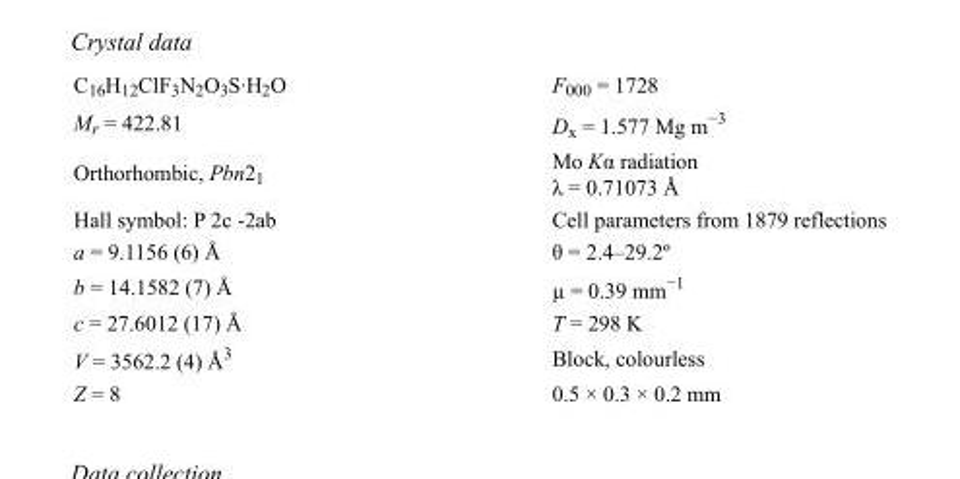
<table><tbody><tr><td>C<sub>16</sub>H<sub>12</sub>ClF<sub>3</sub>N<sub>2</sub>O<sub>3</sub>S·H<sub>2</sub>O</td><td>F000 = 1728</td></tr><tr><td>M<sub>r</sub> = 422.81</td><td>D<sub>x</sub> = 1.577 Mg m<sup>−3</sup></td></tr><tr><td>Orthorhombic, Pbn2<sub>1</sub></td><td>Mo Kα radiation λ = 0.71073 Å</td></tr><tr><td>Hall symbol: P 2c -2ab</td><td>Cell parameters from 1879 reflections</td></tr><tr><td>a = 9.1156 (6) Å</td><td>θ = 2.4–29.2º</td></tr><tr><td>b = 14.1582 (7) Å</td><td>µ = 0.39 mm<sup>−1</sup></td></tr><tr><td>c = 27.6012 (17) Å</td><td>T = 298 K</td></tr><tr><td>V = 3562.2 (4) Å<sup>3</sup></td><td>Block, colourless</td></tr><tr><td>Z = 8</td><td>0.5 × 0.3 × 0.2 mm</td></tr></tbody></table>